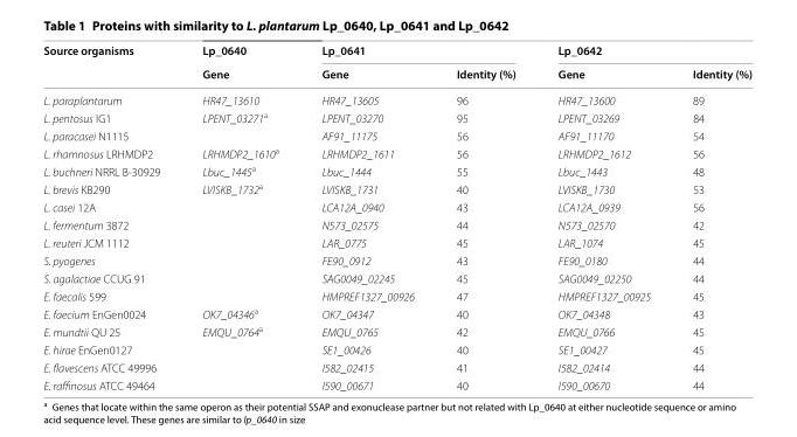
<table><thead><tr><td rowspan="2">Source organisms</td><td rowspan="2">Lp_0640 Gene</td><td colspan="2">Lp_0641</td><td colspan="2">Lp_0642</td></tr><tr><td>Gene</td><td>Identity (%)</td><td>Gene</td><td>Identity (%)</td></tr></thead><tbody><tr><td>L. paraplantarum</td><td>HR47_13610</td><td>HR47_13605</td><td>96</td><td>HR47_13600</td><td>89</td></tr><tr><td>L. pentosus IG1</td><td>LPENT_03271<sup>a</sup></td><td>LPENT_03270</td><td>95</td><td>LPENT_03269</td><td>84</td></tr><tr><td>L. paracasei N1115</td><td></td><td>AF91_11175</td><td>56</td><td>AF91_11170</td><td>54</td></tr><tr><td>L. rhamnosus LRHMDP2</td><td>LRHMDP2_1610<sup>a</sup></td><td>LRHMDP2_1611</td><td>56</td><td>LRHMDP2_1612</td><td>56</td></tr><tr><td>L. buchneri NRRL B-30929</td><td>Lbuc_1445<sup>a</sup></td><td>Lbuc_1444</td><td>55</td><td>Lbuc_1443</td><td>48</td></tr><tr><td>L. brevis KB290</td><td>LVISKB_1732<sup>a</sup></td><td>LVISKB_1731</td><td>40</td><td>LVISKB_1730</td><td>53</td></tr><tr><td>L. casei 12A</td><td></td><td>LCA12A_0940</td><td>43</td><td>LCA12A_0939</td><td>56</td></tr><tr><td>L. fermentum 3872</td><td></td><td>N573_02575</td><td>44</td><td>N573_02570</td><td>42</td></tr><tr><td>L. reuteri JCM 1112</td><td></td><td>LAR_0775</td><td>45</td><td>LAR_1074</td><td>45</td></tr><tr><td>S. pyogenes</td><td></td><td>FE90_0912</td><td>43</td><td>FE90_0180</td><td>44</td></tr><tr><td>S. agalactiae CCUG 91</td><td></td><td>SAG0049_02245</td><td>45</td><td>SAG0049_02250</td><td>44</td></tr><tr><td>E. faecalis 599</td><td></td><td>HMPREF1327_00926</td><td>47</td><td>HMPREF1327_00925</td><td>45</td></tr><tr><td>E. faecium EnGen0024</td><td>OK7_04346<sup>a</sup></td><td>OK7_04347</td><td>40</td><td>OK7_04348</td><td>43</td></tr><tr><td>E. mundtii QU 25</td><td>EMQU_0764<sup>a</sup></td><td>EMQU_0765</td><td>42</td><td>EMQU_0766</td><td>45</td></tr><tr><td>E. hirae EnGen0127</td><td></td><td>SE1_00426</td><td>40</td><td>SE1_00427</td><td>45</td></tr><tr><td>E. flavescens ATCC 49996</td><td></td><td>I582_02415</td><td>41</td><td>I582_02414</td><td>44</td></tr><tr><td>E. raffinosus ATCC 49464</td><td></td><td>I590_00671</td><td>40</td><td>I590_00670</td><td>44</td></tr></tbody></table>